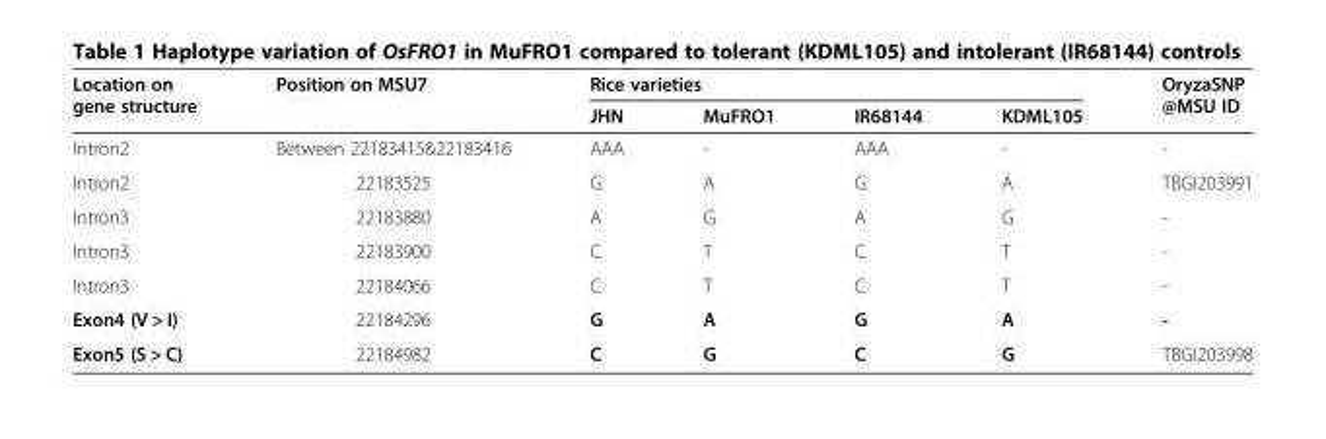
<table><thead><tr><td rowspan="2">Location on gene structure</td><td rowspan="2">Position on MSU7</td><td colspan="4">Rice varieties</td><td rowspan="2">OryzaSNP @MSU ID</td></tr><tr><td>JHN</td><td>MuFRO1</td><td>IR68144</td><td>KDML105</td></tr></thead><tbody><tr><td>Intron2</td><td>Between 22183415&amp;22183416</td><td>AAA</td><td>-</td><td>AAA</td><td>-</td><td>-</td></tr><tr><td>Intron2</td><td>22183525</td><td>G</td><td>A</td><td>G</td><td>A</td><td>TBGI203991</td></tr><tr><td>Intron3</td><td>22183880</td><td>A</td><td>G</td><td>A</td><td>G</td><td>-</td></tr><tr><td>Intron3</td><td>22183900</td><td>C</td><td>T</td><td>C</td><td>T</td><td>-</td></tr><tr><td>Intron3</td><td>22184066</td><td>C</td><td>T</td><td>C</td><td>T</td><td>-</td></tr><tr><td>Exon4 (V &gt; I)</td><td>22184296</td><td>G</td><td>A</td><td>G</td><td>A</td><td>-</td></tr><tr><td>Exon5 (S &gt; C)</td><td>22184982</td><td>C</td><td>G</td><td>C</td><td>G</td><td>TBGI203998</td></tr></tbody></table>